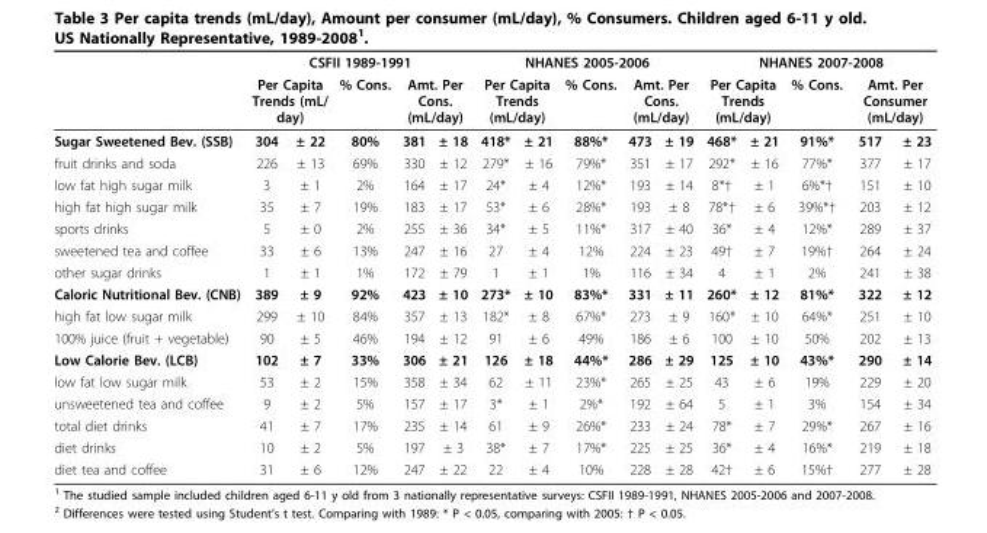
<table><thead><tr><td rowspan="3">Sugar Sweetened Bev. (SSB)</td><td colspan="5">CSFII 1989-1991</td><td colspan="5">NHANES 2005-2006</td><td colspan="5">NHANES 2007-2008</td></tr><tr><td colspan="2">Per Capita Trends (mL/ day)</td><td rowspan="2">% Cons. 80%</td><td colspan="2">Amt. Per Cons. (mL/day)</td><td colspan="2">Per Capita Trends (mL/day)</td><td rowspan="2">% Cons. 88%*</td><td colspan="2">Amt. Per Cons. (mL/day)</td><td colspan="2">Per Capita Trends (mL/day)</td><td rowspan="2">% Cons. 91%*</td><td colspan="2">Amt. Per Consumer (mL/day)</td></tr><tr><td>304</td><td>± 22</td><td>381</td><td>± 18</td><td>418*</td><td>± 21</td><td>473</td><td>± 19</td><td>468*</td><td>± 21</td><td>517</td><td>± 23</td></tr></thead><tbody><tr><td>fruit drinks and soda</td><td>226</td><td>± 13</td><td>69%</td><td>330</td><td>± 12</td><td>279*</td><td>± 16</td><td>79%*</td><td>351</td><td>± 17</td><td>292*</td><td>± 16</td><td>77%*</td><td>377</td><td>± 17</td></tr><tr><td>low fat high sugar milk</td><td>3</td><td>± 1</td><td>2%</td><td>164</td><td>± 17</td><td>24*</td><td>± 4</td><td>12%*</td><td>193</td><td>± 14</td><td>8*†</td><td>± 1</td><td>6%*†</td><td>151</td><td>± 10</td></tr><tr><td>high fat high sugar milk</td><td>35</td><td>± 7</td><td>19%</td><td>183</td><td>± 17</td><td>53*</td><td>± 6</td><td>28%*</td><td>193</td><td>± 8</td><td>78*†</td><td>± 6</td><td>39%*†</td><td>203</td><td>± 12</td></tr><tr><td>sports drinks</td><td>5</td><td>± 0</td><td>2%</td><td>255</td><td>± 36</td><td>34*</td><td>± 5</td><td>11%*</td><td>317</td><td>± 40</td><td>36*</td><td>± 4</td><td>12%*</td><td>289</td><td>± 37</td></tr><tr><td>sweetened tea and coffee</td><td>33</td><td>± 6</td><td>13%</td><td>247</td><td>± 16</td><td>27</td><td>± 4</td><td>12%</td><td>224</td><td>± 23</td><td>49†</td><td>± 7</td><td>19%†</td><td>264</td><td>± 24</td></tr><tr><td>other sugar drinks</td><td>1</td><td>± 1</td><td>1%</td><td>172</td><td>± 79</td><td>1</td><td>± 1</td><td>1%</td><td>116</td><td>± 34</td><td>4</td><td>± 1</td><td>2%</td><td>241</td><td>± 38</td></tr><tr><td>Caloric Nutritional Bev. (CNB)</td><td>389</td><td>± 9</td><td>92%</td><td>423</td><td>± 10</td><td>273*</td><td>± 10</td><td>83%*</td><td>331</td><td>± 11</td><td>260*</td><td>± 12</td><td>81%*</td><td>322</td><td>± 12</td></tr><tr><td>high fat low sugar milk</td><td>299</td><td>± 10</td><td>84%</td><td>357</td><td>± 13</td><td>182*</td><td>± 8</td><td>67%*</td><td>273</td><td>± 9</td><td>160*</td><td>± 10</td><td>64%*</td><td>251</td><td>± 10</td></tr><tr><td>100% juice (fruit + vegetable)</td><td>90</td><td>± 5</td><td>46%</td><td>194</td><td>± 12</td><td>91</td><td>± 6</td><td>49%</td><td>186</td><td>± 6</td><td>100</td><td>± 10</td><td>50%</td><td>202</td><td>± 13</td></tr><tr><td>Low Calorie Bev. (LCB)</td><td>102</td><td>± 7</td><td>33%</td><td>306</td><td>± 21</td><td>126</td><td>± 18</td><td>44%*</td><td>286</td><td>± 29</td><td>125</td><td>± 10</td><td>43%*</td><td>290</td><td>± 14</td></tr><tr><td>low fat low sugar milk</td><td>53</td><td>± 2</td><td>15%</td><td>358</td><td>± 34</td><td>62</td><td>± 11</td><td>23%*</td><td>265</td><td>± 25</td><td>43</td><td>± 6</td><td>19%</td><td>229</td><td>± 20</td></tr><tr><td>unsweetened tea and coffee</td><td>9</td><td>± 2</td><td>5%</td><td>157</td><td>± 17</td><td>3*</td><td>± 1</td><td>2%*</td><td>192</td><td>± 64</td><td>5</td><td>± 1</td><td>3%</td><td>154</td><td>± 34</td></tr><tr><td>total diet drinks</td><td>41</td><td>± 7</td><td>17%</td><td>235</td><td>± 14</td><td>61</td><td>± 9</td><td>26%*</td><td>233</td><td>± 24</td><td>78*</td><td>± 7</td><td>29%*</td><td>267</td><td>± 16</td></tr><tr><td>diet drinks</td><td>10</td><td>± 2</td><td>5%</td><td>197</td><td>± 3</td><td>38*</td><td>± 7</td><td>17%*</td><td>225</td><td>± 25</td><td>36*</td><td>± 4</td><td>16%*</td><td>219</td><td>± 18</td></tr><tr><td>diet tea and coffee</td><td>31</td><td>± 6</td><td>12%</td><td>247</td><td>± 22</td><td>22</td><td>± 4</td><td>10%</td><td>228</td><td>± 28</td><td>42†</td><td>± 6</td><td>15%†</td><td>277</td><td>± 28</td></tr></tbody></table>